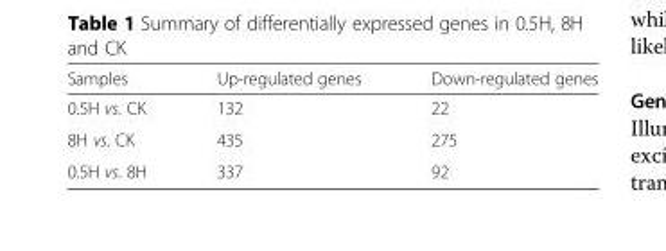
<table><thead><tr><td>Samples</td><td>Up-regulated genes</td><td>Down-regulated genes</td></tr></thead><tbody><tr><td>0.5H vs. CK</td><td>132</td><td>22</td></tr><tr><td>8H vs. CK</td><td>435</td><td>275</td></tr><tr><td>0.5H vs. 8H</td><td>337</td><td>92</td></tr></tbody></table>